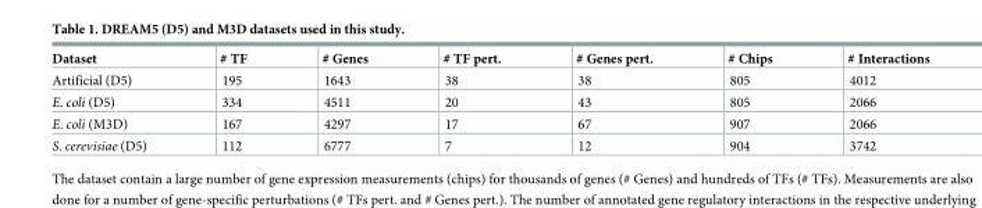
<table><thead><tr><td>Dataset</td><td># TF</td><td># Genes</td><td># TF pert.</td><td># Genes pert.</td><td># Chips</td><td># Interactions</td></tr></thead><tbody><tr><td>Artificial (D5)</td><td>195</td><td>1643</td><td>38</td><td>38</td><td>805</td><td>4012</td></tr><tr><td>E. coli (D5)</td><td>334</td><td>4511</td><td>20</td><td>43</td><td>805</td><td>2066</td></tr><tr><td>E. coli (M3D)</td><td>167</td><td>4297</td><td>17</td><td>67</td><td>907</td><td>2066</td></tr><tr><td>S. cerevisiae (D5)</td><td>112</td><td>6777</td><td>7</td><td>12</td><td>904</td><td>3742</td></tr></tbody></table>